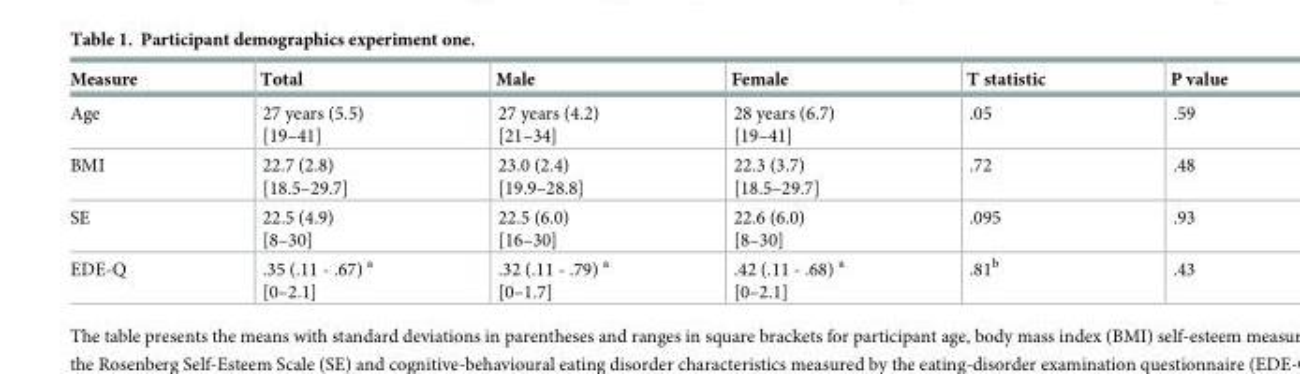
<table><thead><tr><td>Measure</td><td>Total</td><td>Male</td><td>Female</td><td>T statistic</td><td>P value</td></tr></thead><tbody><tr><td>Age</td><td>27 years (5.5) [19–41]</td><td>27 years (4.2) [21–34]</td><td>28 years (6.7) [19–41]</td><td>.05</td><td>.59</td></tr><tr><td>BMI</td><td>22.7 (2.8) [18.5–29.7]</td><td>23.0 (2.4) [19.9–28.8]</td><td>22.3 (3.7) [18.5–29.7]</td><td>.72</td><td>.48</td></tr><tr><td>SE</td><td>22.5 (4.9) [8–30]</td><td>22.5 (6.0) [16–30]</td><td>22.6 (6.0) [8–30]</td><td>.095</td><td>.93</td></tr><tr><td>EDE-Q</td><td>.35 (.11 - .67) <sup>a</sup> [0–2.1]</td><td>.32 (.11 - .79) <sup>a</sup> [0–1.7]</td><td>.42 (.11 - .68) <sup>a</sup> [0–2.1]</td><td>.81<sup>b</sup></td><td>.43</td></tr></tbody></table>